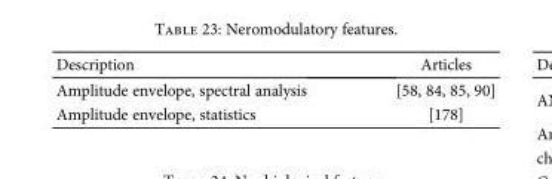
<table><thead><tr><td>Description</td><td>Articles</td></tr></thead><tbody><tr><td>Amplitude envelope, spectral analysis</td><td>[58, 84, 85, 90]</td></tr><tr><td>Amplitude envelope, statistics</td><td>[178]</td></tr></tbody></table>